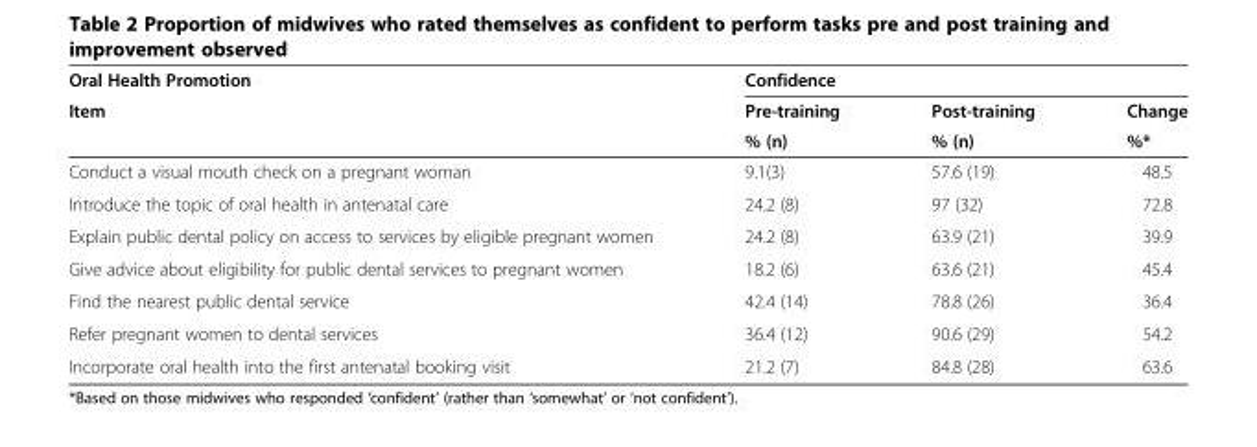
<table><thead><tr><td rowspan="3">Oral Health Promotion Item</td><td colspan="3">Confidence</td></tr><tr><td rowspan="2">Pre-training % (n)</td><td rowspan="2">Post-training % (n)</td><td rowspan="2">Change %*</td></tr><tr></tr></thead><tbody><tr><td>Conduct a visual mouth check on a pregnant woman</td><td>9.1(3)</td><td>57.6 (19)</td><td>48.5</td></tr><tr><td>Introduce the topic of oral health in antenatal care</td><td>24.2 (8)</td><td>97 (32)</td><td>72.8</td></tr><tr><td>Explain public dental policy on access to services by eligible pregnant women</td><td>24.2 (8)</td><td>63.9 (21)</td><td>39.9</td></tr><tr><td>Give advice about eligibility for public dental services to pregnant women</td><td>18.2 (6)</td><td>63.6 (21)</td><td>45.4</td></tr><tr><td>Find the nearest public dental service</td><td>42.4 (14)</td><td>78.8 (26)</td><td>36.4</td></tr><tr><td>Refer pregnant women to dental services</td><td>36.4 (12)</td><td>90.6 (29)</td><td>54.2</td></tr><tr><td>Incorporate oral health into the first antenatal booking visit</td><td>21.2 (7)</td><td>84.8 (28)</td><td>63.6</td></tr></tbody></table>